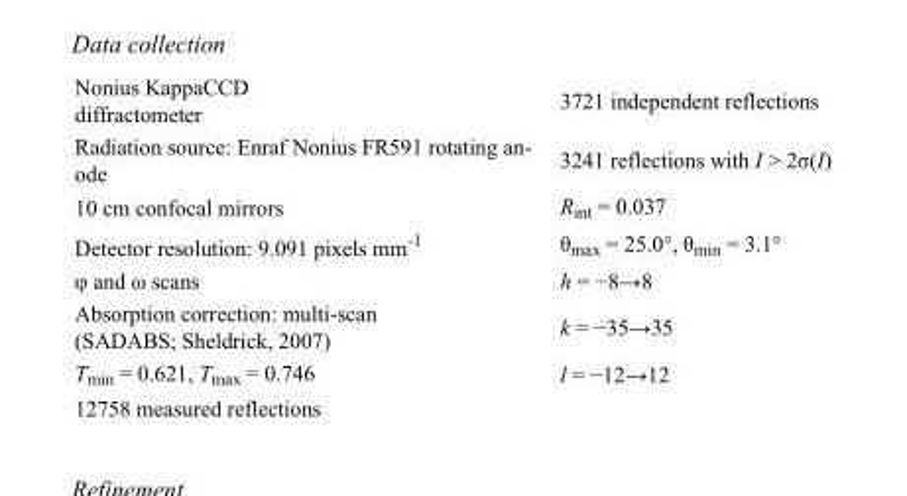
<table><tbody><tr><td>Nonius KappaCCD diffractometer</td><td>3721 independent reflections</td></tr><tr><td>Radiation source: Enraf Nonius FR591 rotating an- ode</td><td>3241 reflections with I &gt; 2σ(I)</td></tr><tr><td>10 cm confocal mirrors</td><td>R<sub>int</sub> = 0.037</td></tr><tr><td>Detector resolution: 9.091 pixels mm<sup>-1</sup></td><td>θ<sub>max</sub> = 25.0°, θ<sub>min</sub> = 3.1°</td></tr><tr><td>φ and ω scans</td><td>h = −8→8</td></tr><tr><td>Absorption correction: multi-scan (SADABS; Sheldrick, 2007)</td><td>k = −35→35</td></tr><tr><td>T<sub>min</sub> = 0.621, T<sub>max</sub> = 0.746</td><td>l = −12→12</td></tr><tr><td>12758 measured reflections</td><td></td></tr></tbody></table>